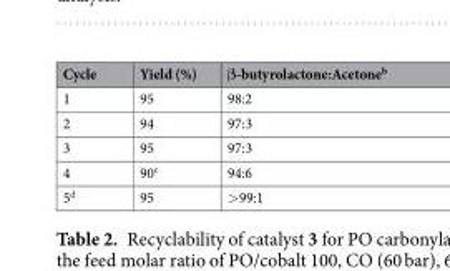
<table><thead><tr><td>Cycle</td><td>Yield (%)</td><td>β-butyrolactone:Acetone<sup>b</sup></td></tr></thead><tbody><tr><td>1</td><td>95</td><td>98:2</td></tr><tr><td>2</td><td>94</td><td>97:3</td></tr><tr><td>3</td><td>95</td><td>97:3</td></tr><tr><td>4</td><td>90<sup>c</sup></td><td>94:6</td></tr><tr><td>5<sup>d</sup></td><td>95</td><td>&gt;99:1</td></tr></tbody></table>